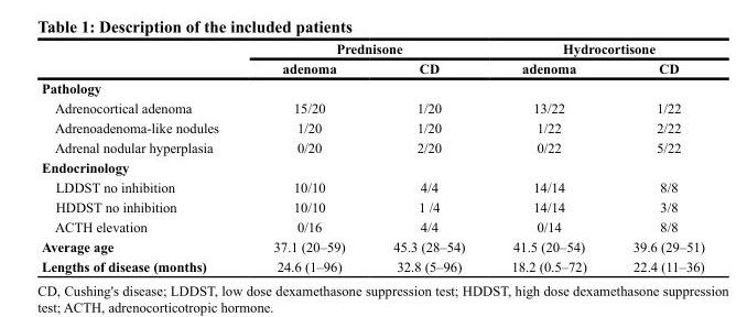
<table><thead><tr><td rowspan="2"></td><td colspan="2">Prednisone</td><td colspan="2">Hydrocortisone</td></tr><tr><td>adenoma</td><td>CD</td><td>adenoma</td><td>CD</td></tr></thead><tbody><tr><td colspan="5">Pathology</td></tr><tr><td>Adrenocortical adenoma</td><td>15/20</td><td>1/20</td><td>13/22</td><td>1/22</td></tr><tr><td>Adrenoadenoma-like nodules</td><td>1/20</td><td>1/20</td><td>1/22</td><td>2/22</td></tr><tr><td>Adrenal nodular hyperplasia</td><td>0/20</td><td>2/20</td><td>0/22</td><td>5/22</td></tr><tr><td colspan="5">Endocrinology</td></tr><tr><td>LDDST no inhibition</td><td>10/10</td><td>4/4</td><td>14/14</td><td>8/8</td></tr><tr><td>HDDST no inhibition</td><td>10/10</td><td>1 /4</td><td>14/14</td><td>3/8</td></tr><tr><td>ACTH elevation</td><td>0/16</td><td>4/4</td><td>0/14</td><td>8/8</td></tr><tr><td>Average age</td><td>37.1 (20–59)</td><td>45.3 (28–54)</td><td>41.5 (20–54)</td><td>39.6 (29–51)</td></tr><tr><td>Lengths of disease (months)</td><td>24.6 (1–96)</td><td>32.8 (5–96)</td><td>18.2 (0.5–72)</td><td>22.4 (11–36)</td></tr></tbody></table>